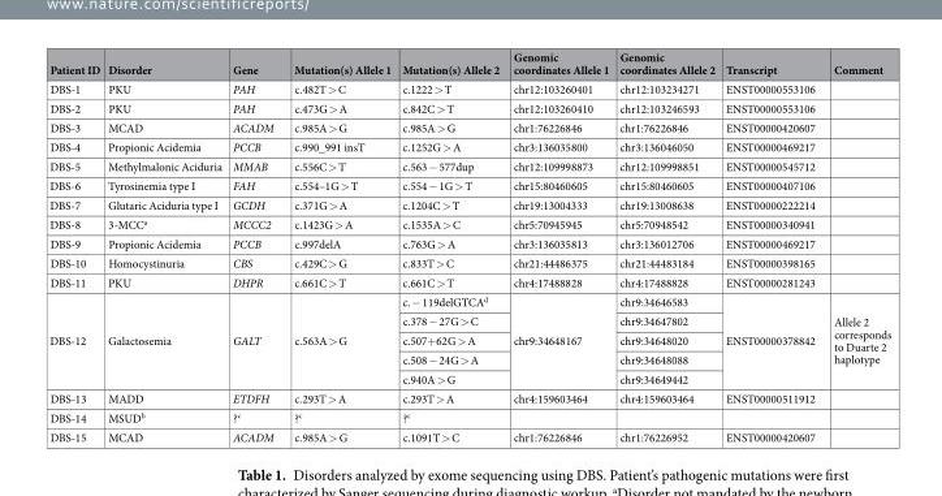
<table><thead><tr><td>Patient ID</td><td>Disorder</td><td>Gene</td><td>Mutation(s) Allele 1</td><td>Mutation(s) Allele 2</td><td>Genomic coordinates Allele 1</td><td>Genomic coordinates Allele 2</td><td>Transcript</td><td>Comment</td></tr></thead><tbody><tr><td>DBS-1</td><td>PKU</td><td>PAH</td><td>c.482T &gt; C</td><td>c.1222 &gt; T</td><td>chr12:103260401</td><td>chr12:103234271</td><td>ENST00000553106</td><td></td></tr><tr><td>DBS-2</td><td>PKU</td><td>PAH</td><td>c.473G &gt; A</td><td>c.842C &gt; T</td><td>chr12:103260410</td><td>chr12:103246593</td><td>ENST00000553106</td><td></td></tr><tr><td>DBS-3</td><td>MCAD</td><td>ACADM</td><td>c.985A &gt; G</td><td>c.985A &gt; G</td><td>chr1:76226846</td><td>chr1:76226846</td><td>ENST00000420607</td><td></td></tr><tr><td>DBS-4</td><td>Propionic Acidemia</td><td>PCCB</td><td>c.990_991 insT</td><td>c.1252G &gt; A</td><td>chr3:136035800</td><td>chr3:136046050</td><td>ENST00000469217</td><td></td></tr><tr><td>DBS-5</td><td>Methylmalonic Aciduria</td><td>MMAB</td><td>c.556C &gt; T</td><td>c.563 − 577dup</td><td>chr12:109998873</td><td>chr12:109998851</td><td>ENST00000545712</td><td></td></tr><tr><td>DBS-6</td><td>Tyrosinemia type I</td><td>FAH</td><td>c.554–1G &gt; T</td><td>c.554 − 1G &gt; T</td><td>chr15:80460605</td><td>chr15:80460605</td><td>ENST00000407106</td><td></td></tr><tr><td>DBS-7</td><td>Glutaric Aciduria type I</td><td>GCDH</td><td>c.371G &gt; A</td><td>c.1204C &gt; T</td><td>chr19:13004333</td><td>chr19:13008638</td><td>ENST00000222214</td><td></td></tr><tr><td>DBS-8</td><td>3-MCC<sup>a</sup></td><td>MCCC2</td><td>c.1423G &gt; A</td><td>c.1535A &gt; C</td><td>chr5:70945945</td><td>chr5:70948542</td><td>ENST00000340941</td><td></td></tr><tr><td>DBS-9</td><td>Propionic Acidemia</td><td>PCCB</td><td>c.997delA</td><td>c.763G &gt; A</td><td>chr3:136035813</td><td>chr3:136012706</td><td>ENST00000469217</td><td></td></tr><tr><td>DBS-10</td><td>Homocystinuria</td><td>CBS</td><td>c.429C &gt; G</td><td>c.833T &gt; C</td><td>chr21:44486375</td><td>chr21:44483184</td><td>ENST00000398165</td><td></td></tr><tr><td>DBS-11</td><td>PKU</td><td>DHPR</td><td>c.661C &gt; T</td><td>c.661C &gt; T</td><td>chr4:17488828</td><td>chr4:17488828</td><td>ENST00000281243</td><td></td></tr><tr><td rowspan="5">DBS-12</td><td rowspan="5">Galactosemia</td><td rowspan="5">GALT</td><td rowspan="5">c.563A &gt; G</td><td>c. − 119delGTCA<sup>d</sup></td><td rowspan="5">chr9:34648167</td><td>chr9:34646583</td><td rowspan="5">ENST00000378842</td><td rowspan="5">Allele 2 corresponds to Duarte 2 haplotype</td></tr><tr><td>c.378 − 27G &gt; C</td><td>chr9:34647802</td></tr><tr><td>c.507+62G &gt; A</td><td>chr9:34648020</td></tr><tr><td>c.508 − 24G &gt; A</td><td>chr9:34648088</td></tr><tr><td>c.940A &gt; G</td><td>chr9:34649442</td></tr><tr><td>DBS-13</td><td>MADD</td><td>ETDFH</td><td>c.293T &gt; A</td><td>c.293T &gt; A</td><td>chr4:159603464</td><td>chr4:159603464</td><td>ENST00000511912</td><td></td></tr><tr><td>DBS-14</td><td>MSUD<sup>b</sup></td><td>?<sup>c</sup></td><td>?<sup>c</sup></td><td>?<sup>c</sup></td><td></td><td></td><td></td><td></td></tr><tr><td>DBS-15</td><td>MCAD</td><td>ACADM</td><td>c.985A &gt; G</td><td>c.1091T &gt; C</td><td>chr1:76226846</td><td>chr1:76226952</td><td>ENST00000420607</td><td></td></tr></tbody></table>